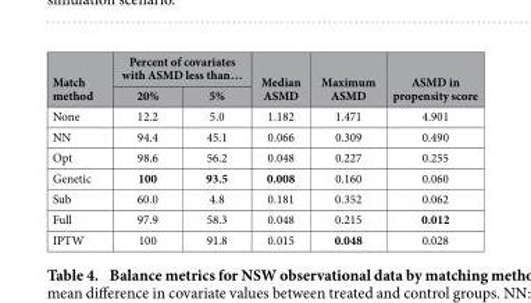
<table><thead><tr><td rowspan="2">Match method</td><td colspan="2">Percent of covariates with ASMD less than…</td><td rowspan="2">Median ASMD</td><td rowspan="2">Maximum ASMD</td><td rowspan="2">ASMD in propensity score</td></tr><tr><td>20%</td><td>5%</td></tr></thead><tbody><tr><td>None</td><td>12.2</td><td>5.0</td><td>1.182</td><td>1.471</td><td>4.901</td></tr><tr><td>NN</td><td>94.4</td><td>45.1</td><td>0.066</td><td>0.309</td><td>0.490</td></tr><tr><td>Opt</td><td>98.6</td><td>56.2</td><td>0.048</td><td>0.227</td><td>0.255</td></tr><tr><td>Genetic</td><td>100</td><td>93.5</td><td>0.008</td><td>0.160</td><td>0.060</td></tr><tr><td>Sub</td><td>60.0</td><td>4.8</td><td>0.181</td><td>0.352</td><td>0.062</td></tr><tr><td>Full</td><td>97.9</td><td>58.3</td><td>0.048</td><td>0.215</td><td>0.012</td></tr><tr><td>IPTW</td><td>100</td><td>91.8</td><td>0.015</td><td>0.048</td><td>0.028</td></tr></tbody></table>